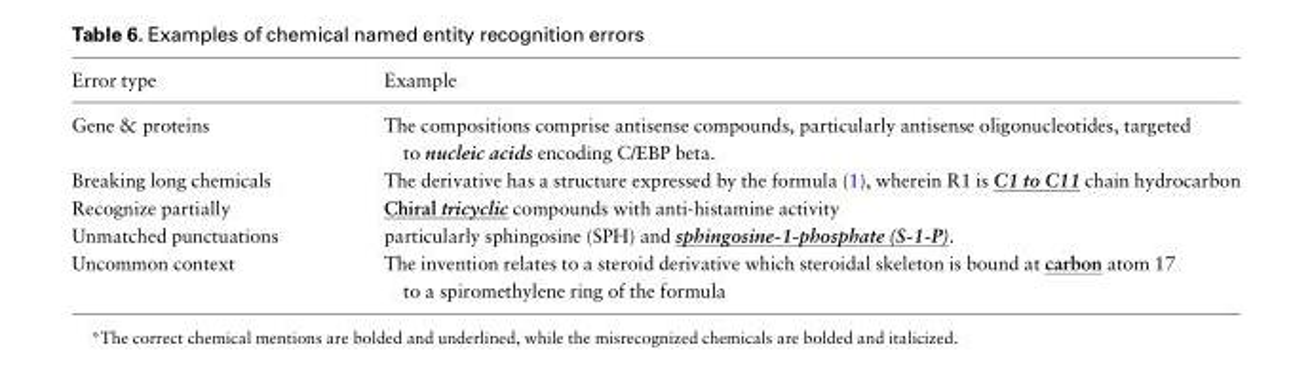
<table><thead><tr><td>Error type</td><td>Example</td></tr></thead><tbody><tr><td>Gene &amp; proteins</td><td>The compositions comprise antisense compounds, particularly antisense oligonucleotides, targeted to nucleic acids encoding C/EBP beta.</td></tr><tr><td>Breaking long chemicals</td><td>The derivative has a structure expressed by the formula (1), wherein R1 is C1 to C11 chain hydrocarbon</td></tr><tr><td>Recognize partially</td><td>Chiral tricyclic compounds with anti-histamine activity</td></tr><tr><td>Unmatched punctuations</td><td>particularly sphingosine (SPH) and sphingosine-1-phosphate (S-1-P).</td></tr><tr><td>Uncommon context</td><td>The invention relates to a steroid derivative which steroidal skeleton is bound at carbon atom 17 to a spiromethylene ring of the formula</td></tr></tbody></table>